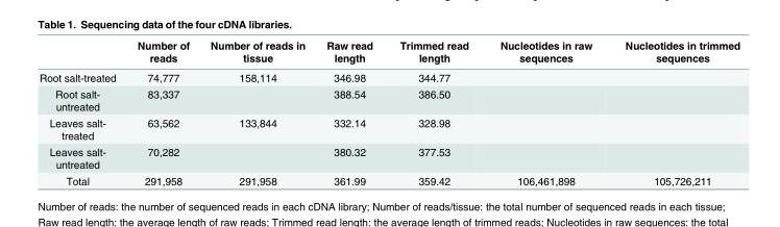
<table><thead><tr><td></td><td>Number of reads</td><td>Number of reads in tissue</td><td>Raw read length</td><td>Trimmed read length</td><td>Nucleotides in raw sequences</td><td>Nucleotides in trimmed sequences</td></tr></thead><tbody><tr><td>Root salt-treated</td><td>74,777</td><td>158,114</td><td>346.98</td><td>344.77</td><td></td><td></td></tr><tr><td>Root salt- untreated</td><td>83,337</td><td></td><td>388.54</td><td>386.50</td><td></td><td></td></tr><tr><td>Leaves salt- treated</td><td>63,562</td><td>133,844</td><td>332.14</td><td>328.98</td><td></td><td></td></tr><tr><td>Leaves salt- untreated</td><td>70,282</td><td></td><td>380.32</td><td>377.53</td><td></td><td></td></tr><tr><td>Total</td><td>291,958</td><td>291,958</td><td>361.99</td><td>359.42</td><td>106,461,898</td><td>105,726,211</td></tr></tbody></table>